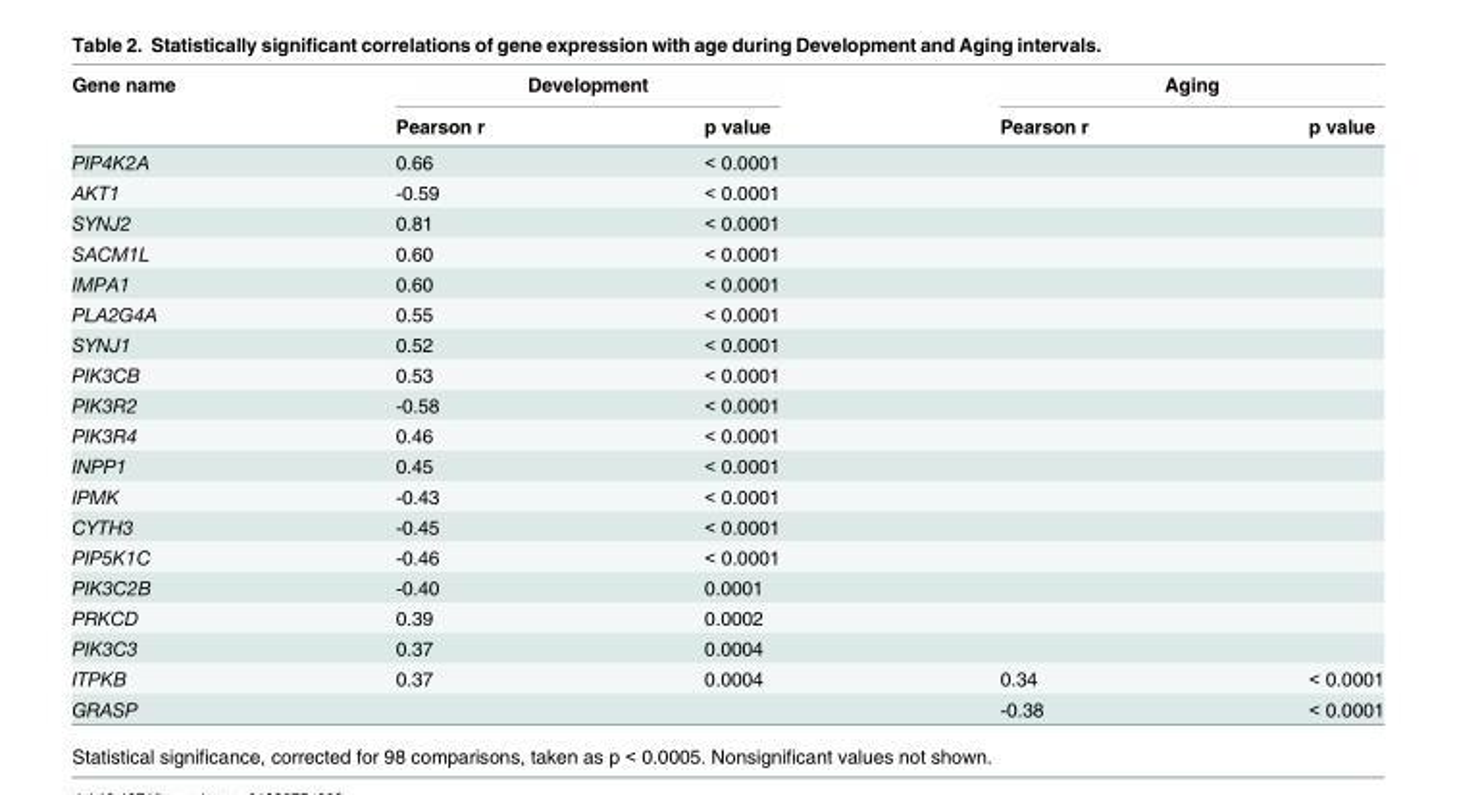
<table><thead><tr><td rowspan="2">Gene name</td><td colspan="2">Development</td><td colspan="2">Aging</td></tr><tr><td>Pearson r</td><td>p value</td><td>Pearson r</td><td>p value</td></tr></thead><tbody><tr><td>PIP4K2A</td><td>0.66</td><td>&lt; 0.0001</td><td></td><td></td></tr><tr><td>AKT1</td><td>-0.59</td><td>&lt; 0.0001</td><td></td><td></td></tr><tr><td>SYNJ2</td><td>0.81</td><td>&lt; 0.0001</td><td></td><td></td></tr><tr><td>SACM1L</td><td>0.60</td><td>&lt; 0.0001</td><td></td><td></td></tr><tr><td>IMPA1</td><td>0.60</td><td>&lt; 0.0001</td><td></td><td></td></tr><tr><td>PLA2G4A</td><td>0.55</td><td>&lt; 0.0001</td><td></td><td></td></tr><tr><td>SYNJ1</td><td>0.52</td><td>&lt; 0.0001</td><td></td><td></td></tr><tr><td>PIK3CB</td><td>0.53</td><td>&lt; 0.0001</td><td></td><td></td></tr><tr><td>PIK3R2</td><td>-0.58</td><td>&lt; 0.0001</td><td></td><td></td></tr><tr><td>PIK3R4</td><td>0.46</td><td>&lt; 0.0001</td><td></td><td></td></tr><tr><td>INPP1</td><td>0.45</td><td>&lt; 0.0001</td><td></td><td></td></tr><tr><td>IPMK</td><td>-0.43</td><td>&lt; 0.0001</td><td></td><td></td></tr><tr><td>CYTH3</td><td>-0.45</td><td>&lt; 0.0001</td><td></td><td></td></tr><tr><td>PIP5K1C</td><td>-0.46</td><td>&lt; 0.0001</td><td></td><td></td></tr><tr><td>PIK3C2B</td><td>-0.40</td><td>0.0001</td><td></td><td></td></tr><tr><td>PRKCD</td><td>0.39</td><td>0.0002</td><td></td><td></td></tr><tr><td>PIK3C3</td><td>0.37</td><td>0.0004</td><td></td><td></td></tr><tr><td>ITPKB</td><td>0.37</td><td>0.0004</td><td>0.34</td><td>&lt; 0.0001</td></tr><tr><td>GRASP</td><td></td><td></td><td>-0.38</td><td>&lt; 0.0001</td></tr></tbody></table>